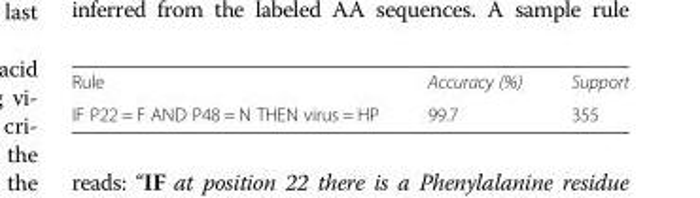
<table><tbody><tr><td>Rule</td><td>Accuracy (%)</td><td>Support</td></tr><tr><td>IF P22 = F AND P48 = N THEN virus = HP</td><td>99.7</td><td>355</td></tr></tbody></table>